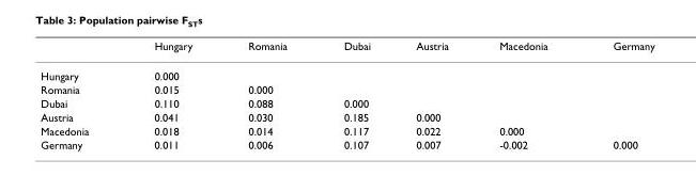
<table><thead><tr><td></td><td>Hungary</td><td>Romania</td><td>Dubai</td><td>Austria</td><td>Macedonia</td><td>Germany</td></tr></thead><tbody><tr><td>Hungary</td><td>0.000</td><td></td><td></td><td></td><td></td><td></td></tr><tr><td>Romania</td><td>0.015</td><td>0.000</td><td></td><td></td><td></td><td></td></tr><tr><td>Dubai</td><td>0.110</td><td>0.088</td><td>0.000</td><td></td><td></td><td></td></tr><tr><td>Austria</td><td>0.041</td><td>0.030</td><td>0.185</td><td>0.000</td><td></td><td></td></tr><tr><td>Macedonia</td><td>0.018</td><td>0.014</td><td>0.117</td><td>0.022</td><td>0.000</td><td></td></tr><tr><td>Germany</td><td>0.011</td><td>0.006</td><td>0.107</td><td>0.007</td><td>-0.002</td><td>0.000</td></tr></tbody></table>